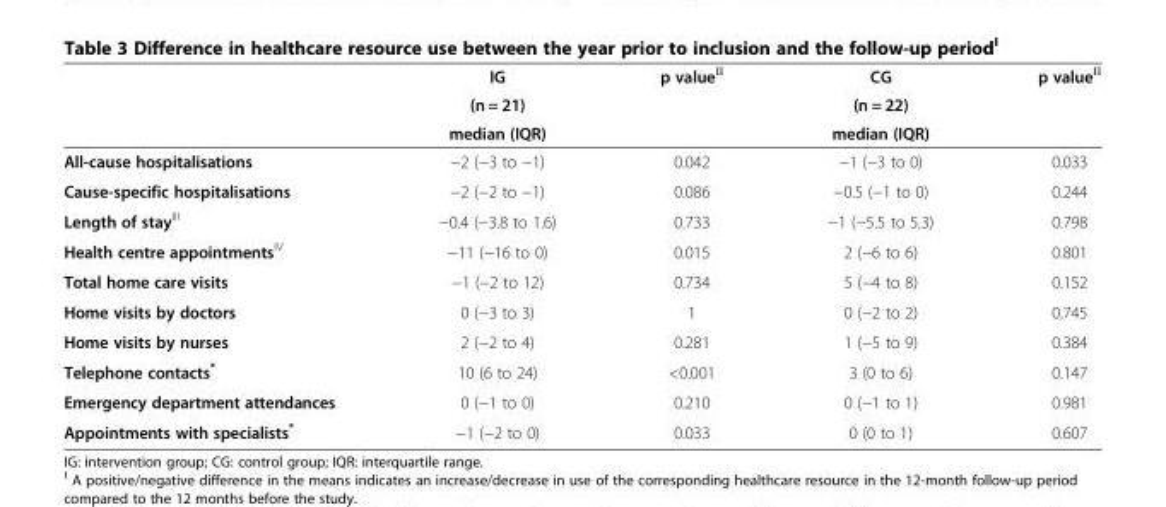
<table><thead><tr><td rowspan="3"></td><td rowspan="3">IG (n = 21) median (IQR)</td><td rowspan="3">p value<sup>II</sup></td><td rowspan="3">CG (n = 22) median (IQR)</td><td rowspan="3">p value<sup>II</sup></td></tr><tr></tr><tr></tr></thead><tbody><tr><td>All-cause hospitalisations</td><td>−2 (−3 to −1)</td><td>0.042</td><td>−1 (−3 to 0)</td><td>0.033</td></tr><tr><td>Cause-specific hospitalisations</td><td>−2 (−2 to −1)</td><td>0.086</td><td>−0.5 (−1 to 0)</td><td>0.244</td></tr><tr><td>Length of stay<sup>III</sup></td><td>−0.4 (−3.8 to 1.6)</td><td>0.733</td><td>−1 (−5.5 to 5.3)</td><td>0.798</td></tr><tr><td>Health centre appointments<sup>IV</sup></td><td>−11 (−16 to 0)</td><td>0.015</td><td>2 (−6 to 6)</td><td>0.801</td></tr><tr><td>Total home care visits</td><td>−1 (−2 to 12)</td><td>0.734</td><td>5 (−4 to 8)</td><td>0.152</td></tr><tr><td>Home visits by doctors</td><td>0 (−3 to 3)</td><td>1</td><td>0 (−2 to 2)</td><td>0.745</td></tr><tr><td>Home visits by nurses</td><td>2 (−2 to 4)</td><td>0.281</td><td>1 (−5 to 9)</td><td>0.384</td></tr><tr><td>Telephone contacts*</td><td>10 (6 to 24)</td><td>&lt;0.001</td><td>3 (0 to 6)</td><td>0.147</td></tr><tr><td>Emergency department attendances</td><td>0 (−1 to 0)</td><td>0.210</td><td>0 (−1 to 1)</td><td>0.981</td></tr><tr><td>Appointments with specialists*</td><td>−1 (−2 to 0)</td><td>0.033</td><td>0 (0 to 1)</td><td>0.607</td></tr></tbody></table>